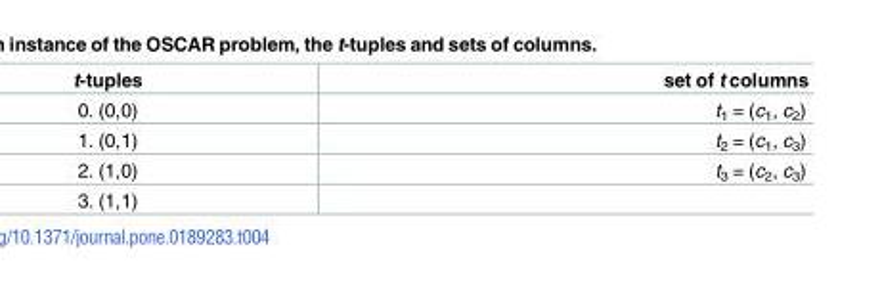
<table><thead><tr><td>t-tuples</td><td>set of t columns</td></tr></thead><tbody><tr><td>0. (0,0)</td><td>t<sub>1</sub> = (c<sub>1</sub>, c<sub>2</sub>)</td></tr><tr><td>1. (0,1)</td><td>t<sub>2</sub> = (c<sub>1</sub>, c<sub>3</sub>)</td></tr><tr><td>2. (1,0)</td><td>t<sub>3</sub> = (c<sub>2</sub>, c<sub>3</sub>)</td></tr><tr><td>3. (1,1)</td><td></td></tr></tbody></table>